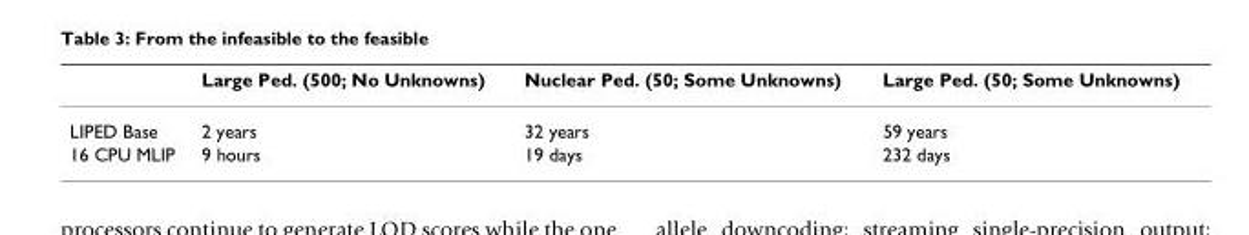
<table><thead><tr><td></td><td>Large Ped. (500; No Unknowns)</td><td>Nuclear Ped. (50; Some Unknowns)</td><td>Large Ped. (50; Some Unknowns)</td></tr></thead><tbody><tr><td>LIPED Base</td><td>2 years</td><td>32 years</td><td>59 years</td></tr><tr><td>16 CPU MLIP</td><td>9 hours</td><td>19 days</td><td>232 days</td></tr></tbody></table>